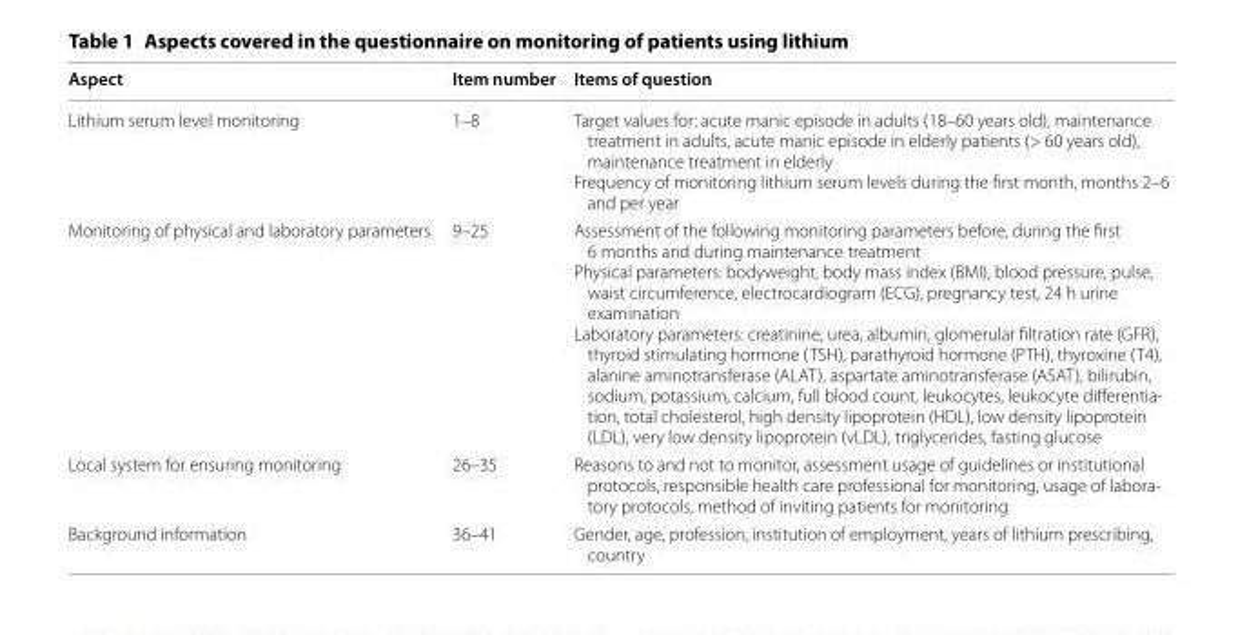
<table><thead><tr><td>Aspect</td><td>Item number</td><td>Items of question</td></tr></thead><tbody><tr><td>Lithium serum level monitoring</td><td>1–8</td><td>Target values for: acute manic episode in adults (18–60 years old), maintenance treatment in adults, acute manic episode in elderly patients (&gt; 60 years old), maintenance treatment in elderly Frequency of monitoring lithium serum levels during the first month, months 2–6 and per year</td></tr><tr><td>Monitoring of physical and laboratory parameters</td><td>9–25</td><td>Assessment of the following monitoring parameters before, during the first 6 months and during maintenance treatment Physical parameters: bodyweight, body mass index (BMI), blood pressure, pulse, waist circumference, electrocardiogram (ECG), pregnancy test, 24 h urine examination Laboratory parameters: creatinine, urea, albumin, glomerular filtration rate (GFR), thyroid stimulating hormone (TSH), parathyroid hormone (PTH), thyroxine (T4), alanine aminotransferase (ALAT), aspartate aminotransferase (ASAT), bilirubin, sodium, potassium, calcium, full blood count, leukocytes, leukocyte differentia- tion, total cholesterol, high density lipoprotein (HDL), low density lipoprotein (LDL), very low density lipoprotein (vLDL), triglycerides, fasting glucose</td></tr><tr><td>Local system for ensuring monitoring</td><td>26–35</td><td>Reasons to and not to monitor, assessment usage of guidelines or institutional protocols, responsible health care professional for monitoring, usage of labora- tory protocols, method of inviting patients for monitoring</td></tr><tr><td>Background information</td><td>36–41</td><td>Gender, age, profession, institution of employment, years of lithium prescribing, country</td></tr></tbody></table>